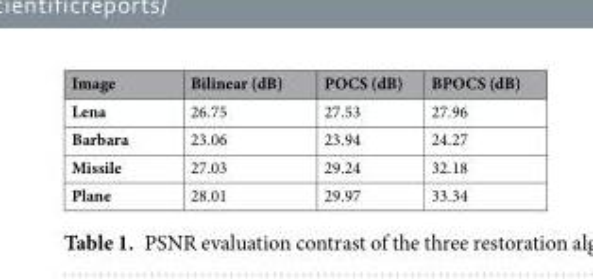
<table><thead><tr><td>Image</td><td>Bilinear (dB)</td><td>POCS (dB)</td><td>BPOCS (dB)</td></tr></thead><tbody><tr><td>Lena</td><td>26.75</td><td>27.53</td><td>27.96</td></tr><tr><td>Barbara</td><td>23.06</td><td>23.94</td><td>24.27</td></tr><tr><td>Missile</td><td>27.03</td><td>29.24</td><td>32.18</td></tr><tr><td>Plane</td><td>28.01</td><td>29.97</td><td>33.34</td></tr></tbody></table>